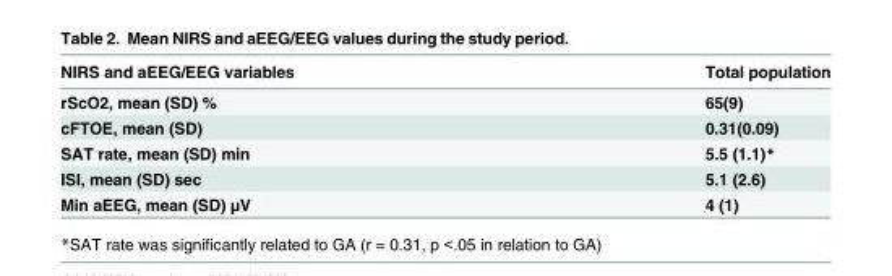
<table><thead><tr><td>NIRS and aEEG/EEG variables</td><td>Total population</td></tr></thead><tbody><tr><td>rScO2, mean (SD) %</td><td>65(9)</td></tr><tr><td>cFTOE, mean (SD)</td><td>0.31(0.09)</td></tr><tr><td>SAT rate, mean (SD) min</td><td>5.5 (1.1)*</td></tr><tr><td>ISI, mean (SD) sec</td><td>5.1 (2.6)</td></tr><tr><td>Min aEEG, mean (SD) μV</td><td>4 (1)</td></tr></tbody></table>